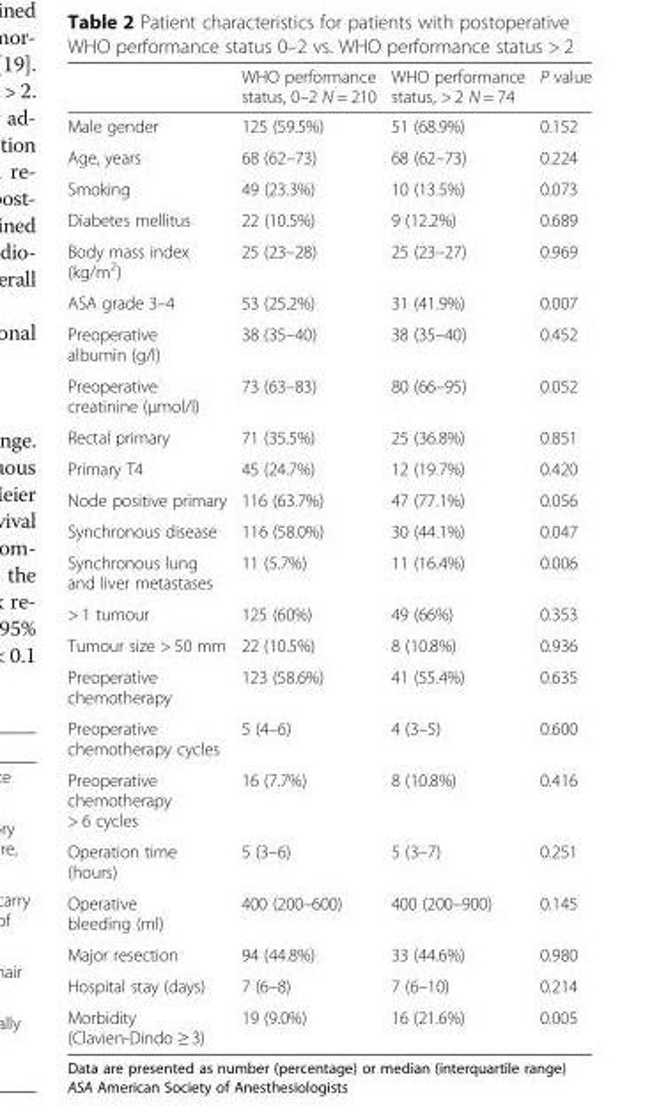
<table><thead><tr><td></td><td>WHO performance status, 0–2 N = 210</td><td>WHO performance status, &gt; 2 N = 74</td><td>P value</td></tr></thead><tbody><tr><td>Male gender</td><td>125 (59.5%)</td><td>51 (68.9%)</td><td>0.152</td></tr><tr><td>Age, years</td><td>68 (62–73)</td><td>68 (62–73)</td><td>0.224</td></tr><tr><td>Smoking</td><td>49 (23.3%)</td><td>10 (13.5%)</td><td>0.073</td></tr><tr><td>Diabetes mellitus</td><td>22 (10.5%)</td><td>9 (12.2%)</td><td>0.689</td></tr><tr><td>Body mass index (kg/m<sup>2</sup>)</td><td>25 (23–28)</td><td>25 (23–27)</td><td>0.969</td></tr><tr><td>ASA grade 3–4</td><td>53 (25.2%)</td><td>31 (41.9%)</td><td>0.007</td></tr><tr><td>Preoperative albumin (g/l)</td><td>38 (35–40)</td><td>38 (35–40)</td><td>0.452</td></tr><tr><td>Preoperative creatinine (μmol/l)</td><td>73 (63–83)</td><td>80 (66–95)</td><td>0.052</td></tr><tr><td>Rectal primary</td><td>71 (35.5%)</td><td>25 (36.8%)</td><td>0.851</td></tr><tr><td>Primary T4</td><td>45 (24.7%)</td><td>12 (19.7%)</td><td>0.420</td></tr><tr><td>Node positive primary</td><td>116 (63.7%)</td><td>47 (77.1%)</td><td>0.056</td></tr><tr><td>Synchronous disease</td><td>116 (58.0%)</td><td>30 (44.1%)</td><td>0.047</td></tr><tr><td>Synchronous lung and liver metastases</td><td>11 (5.7%)</td><td>11 (16.4%)</td><td>0.006</td></tr><tr><td>&gt; 1 tumour</td><td>125 (60%)</td><td>49 (66%)</td><td>0.353</td></tr><tr><td>Tumour size &gt; 50 mm</td><td>22 (10.5%)</td><td>8 (10.8%)</td><td>0.936</td></tr><tr><td>Preoperative chemotherapy</td><td>123 (58.6%)</td><td>41 (55.4%)</td><td>0.635</td></tr><tr><td>Preoperative chemotherapy cycles</td><td>5 (4–6)</td><td>4 (3–5)</td><td>0.600</td></tr><tr><td>Preoperative chemotherapy &gt; 6 cycles</td><td>16 (7.7%)</td><td>8 (10.8%)</td><td>0.416</td></tr><tr><td>Operation time (hours)</td><td>5 (3–6)</td><td>5 (3–7)</td><td>0.251</td></tr><tr><td>Operative bleeding (ml)</td><td>400 (200–600)</td><td>400 (200–900)</td><td>0.145</td></tr><tr><td>Major resection</td><td>94 (44.8%)</td><td>33 (44.6%)</td><td>0.980</td></tr><tr><td>Hospital stay (days)</td><td>7 (6–8)</td><td>7 (6–10)</td><td>0.214</td></tr><tr><td>Morbidity (Clavien-Dindo ≥ 3)</td><td>19 (9.0%)</td><td>16 (21.6%)</td><td>0.005</td></tr></tbody></table>